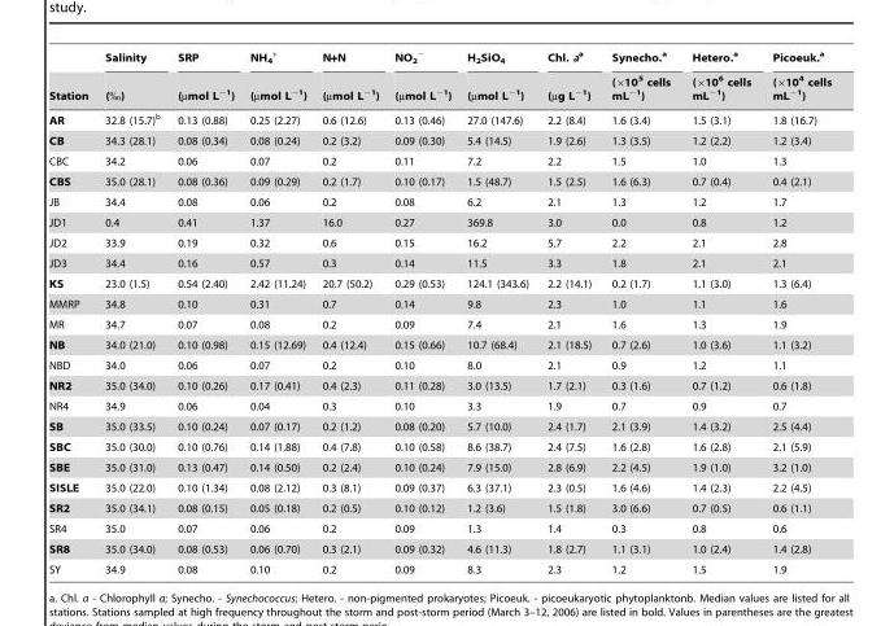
<table><thead><tr><td rowspan="2">Station</td><td rowspan="2">Salinity (‰)</td><td rowspan="2">SRP (µmol L<sup>−1</sup>)</td><td rowspan="2">NH<sub>4</sub> <sup>+</sup> (µmol L<sup>−1</sup>)</td><td rowspan="2">N+N (µmol L<sup>−1</sup>)</td><td rowspan="2">NO<sub>2</sub> <sup>−</sup> (µmol L<sup>−1</sup>)</td><td rowspan="2">H<sub>2</sub>SiO<sub>4</sub> (µmol L<sup>−1</sup>)</td><td rowspan="2">Chl. a<sup>a</sup> (µg L<sup>−1</sup>)</td><td rowspan="2">Synecho.<sup>a</sup> (×10<sup>5</sup> cells mL<sup>−1</sup>)</td><td rowspan="2">Hetero.<sup>a</sup> (×10<sup>6</sup> cells mL<sup>−1</sup>)</td><td rowspan="2">Picoeuk.<sup>a</sup> (×10<sup>4</sup> cells mL<sup>−1</sup>)</td></tr><tr></tr></thead><tbody><tr><td>AR</td><td>32.8 (15.7)<sup>b</sup></td><td>0.13 (0.88)</td><td>0.25 (2.27)</td><td>0.6 (12.6)</td><td>0.13 (0.46)</td><td>27.0 (147.6)</td><td>2.2 (8.4)</td><td>1.6 (3.4)</td><td>1.5 (3.1)</td><td>1.8 (16.7)</td></tr><tr><td>CB</td><td>34.3 (28.1)</td><td>0.08 (0.34)</td><td>0.08 (0.24)</td><td>0.2 (3.2)</td><td>0.09 (0.30)</td><td>5.4 (14.5)</td><td>1.9 (2.6)</td><td>1.3 (3.5)</td><td>1.2 (2.2)</td><td>1.2 (3.4)</td></tr><tr><td>CBC</td><td>34.2</td><td>0.06</td><td>0.07</td><td>0.2</td><td>0.11</td><td>7.2</td><td>2.2</td><td>1.5</td><td>1.0</td><td>1.3</td></tr><tr><td>CBS</td><td>35.0 (28.1)</td><td>0.08 (0.36)</td><td>0.09 (0.29)</td><td>0.2 (1.7)</td><td>0.10 (0.17)</td><td>1.5 (48.7)</td><td>1.5 (2.5)</td><td>1.6 (6.3)</td><td>0.7 (0.4)</td><td>0.4 (2.1)</td></tr><tr><td>JB</td><td>34.4</td><td>0.08</td><td>0.06</td><td>0.2</td><td>0.08</td><td>6.2</td><td>2.1</td><td>1.3</td><td>1.2</td><td>1.7</td></tr><tr><td>JD1</td><td>0.4</td><td>0.41</td><td>1.37</td><td>16.0</td><td>0.27</td><td>369.8</td><td>3.0</td><td>0.0</td><td>0.8</td><td>1.2</td></tr><tr><td>JD2</td><td>33.9</td><td>0.19</td><td>0.32</td><td>0.6</td><td>0.15</td><td>16.2</td><td>5.7</td><td>2.2</td><td>2.1</td><td>2.8</td></tr><tr><td>JD3</td><td>34.4</td><td>0.16</td><td>0.57</td><td>0.3</td><td>0.14</td><td>11.5</td><td>3.3</td><td>1.8</td><td>2.1</td><td>2.1</td></tr><tr><td>KS</td><td>23.0 (1.5)</td><td>0.54 (2.40)</td><td>2.42 (11.24)</td><td>20.7 (50.2)</td><td>0.29 (0.53)</td><td>124.1 (343.6)</td><td>2.2 (14.1)</td><td>0.2 (1.7)</td><td>1.1 (3.0)</td><td>1.3 (6.4)</td></tr><tr><td>MMRP</td><td>34.8</td><td>0.10</td><td>0.31</td><td>0.7</td><td>0.14</td><td>9.8</td><td>2.3</td><td>1.0</td><td>1.1</td><td>1.6</td></tr><tr><td>MR</td><td>34.7</td><td>0.07</td><td>0.08</td><td>0.2</td><td>0.09</td><td>7.4</td><td>2.1</td><td>1.6</td><td>1.3</td><td>1.9</td></tr><tr><td>NB</td><td>34.0 (21.0)</td><td>0.10 (0.98)</td><td>0.15 (12.69)</td><td>0.4 (12.4)</td><td>0.15 (0.66)</td><td>10.7 (68.4)</td><td>2.1 (18.5)</td><td>0.7 (2.6)</td><td>1.0 (3.6)</td><td>1.1 (3.2)</td></tr><tr><td>NBD</td><td>34.0</td><td>0.06</td><td>0.07</td><td>0.2</td><td>0.10</td><td>8.0</td><td>2.1</td><td>0.9</td><td>1.2</td><td>1.1</td></tr><tr><td>NR2</td><td>35.0 (34.0)</td><td>0.10 (0.26)</td><td>0.17 (0.41)</td><td>0.4 (2.3)</td><td>0.11 (0.28)</td><td>3.0 (13.5)</td><td>1.7 (2.1)</td><td>0.3 (1.6)</td><td>0.7 (1.2)</td><td>0.6 (1.8)</td></tr><tr><td>NR4</td><td>34.9</td><td>0.06</td><td>0.04</td><td>0.3</td><td>0.10</td><td>3.3</td><td>1.9</td><td>0.7</td><td>0.9</td><td>0.7</td></tr><tr><td>SB</td><td>35.0 (33.5)</td><td>0.10 (0.24)</td><td>0.07 (0.17)</td><td>0.2 (1.2)</td><td>0.08 (0.20)</td><td>5.7 (10.0)</td><td>2.4 (1.7)</td><td>2.1 (3.9)</td><td>1.4 (3.2)</td><td>2.5 (4.4)</td></tr><tr><td>SBC</td><td>35.0 (30.0)</td><td>0.10 (0.76)</td><td>0.14 (1.88)</td><td>0.4 (7.8)</td><td>0.10 (0.58)</td><td>8.6 (38.7)</td><td>2.4 (7.5)</td><td>1.6 (2.8)</td><td>1.6 (2.8)</td><td>2.1 (5.9)</td></tr><tr><td>SBE</td><td>35.0 (31.0)</td><td>0.13 (0.47)</td><td>0.14 (0.50)</td><td>0.2 (2.4)</td><td>0.10 (0.24)</td><td>7.9 (15.0)</td><td>2.8 (6.9)</td><td>2.2 (4.5)</td><td>1.9 (1.0)</td><td>3.2 (1.0)</td></tr><tr><td>SISLE</td><td>35.0 (22.0)</td><td>0.10 (1.34)</td><td>0.08 (2.12)</td><td>0.3 (8.1)</td><td>0.09 (0.37)</td><td>6.3 (37.1)</td><td>2.3 (0.5)</td><td>1.6 (4.6)</td><td>1.4 (2.3)</td><td>2.2 (4.5)</td></tr><tr><td>SR2</td><td>35.0 (34.1)</td><td>0.08 (0.15)</td><td>0.05 (0.18)</td><td>0.2 (0.5)</td><td>0.10 (0.12)</td><td>1.2 (3.6)</td><td>1.5 (1.8)</td><td>3.0 (6.6)</td><td>0.7 (0.5)</td><td>0.6 (1.1)</td></tr><tr><td>SR4</td><td>35.0</td><td>0.07</td><td>0.06</td><td>0.2</td><td>0.09</td><td>1.3</td><td>1.4</td><td>0.3</td><td>0.8</td><td>0.6</td></tr><tr><td>SR8</td><td>35.0 (34.0)</td><td>0.08 (0.53)</td><td>0.06 (0.70)</td><td>0.3 (2.1)</td><td>0.09 (0.32)</td><td>4.6 (11.3)</td><td>1.8 (2.7)</td><td>1.1 (3.1)</td><td>1.0 (2.4)</td><td>1.4 (2.8)</td></tr><tr><td>SY</td><td>34.9</td><td>0.08</td><td>0.10</td><td>0.2</td><td>0.09</td><td>8.3</td><td>2.3</td><td>1.2</td><td>1.5</td><td>1.9</td></tr></tbody></table>